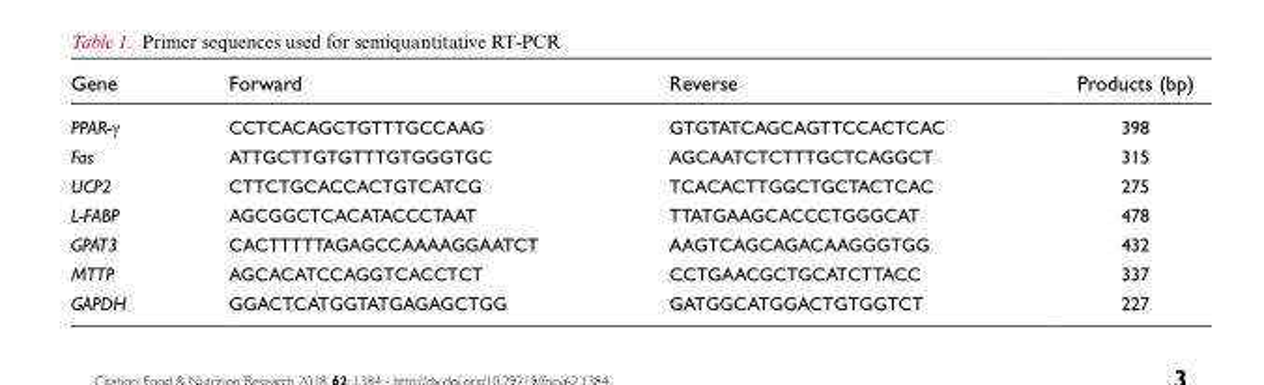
<table><thead><tr><td>Gene</td><td>Forward</td><td>Reverse</td><td>Products (bp)</td></tr></thead><tbody><tr><td>PPAR-γ</td><td>CCTCACAGCTGTTTGCCAAG</td><td>GTGTATCAGCAGTTCCACTCAC</td><td>398</td></tr><tr><td>Fas</td><td>ATTGCTTGTGTTTGTGGGTGC</td><td>AGCAATCTCTTTGCTCAGGCT</td><td>315</td></tr><tr><td>UCP2</td><td>CTTCTGCACCACTGTCATCG</td><td>TCACACTTGGCTGCTACTCAC</td><td>275</td></tr><tr><td>L-FABP</td><td>AGCGGCTCACATACCCTAAT</td><td>TTATGAAGCACCCTGGGCAT</td><td>478</td></tr><tr><td>GPAT3</td><td>CACTTTTTAGAGCCAAAAGGAATCT</td><td>AAGTCAGCAGACAAGGGTGG</td><td>432</td></tr><tr><td>MTTP</td><td>AGCACATCCAGGTCACCTCT</td><td>CCTGAACGCTGCATCTTACC</td><td>337</td></tr><tr><td>GAPDH</td><td>GGACTCATGGTATGAGAGCTGG</td><td>GATGGCATGGACTGTGGTCT</td><td>227</td></tr></tbody></table>